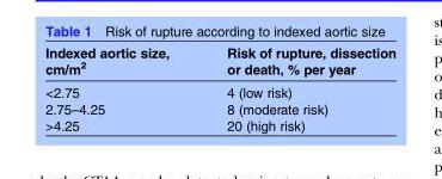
<table><thead><tr><td>Indexed aortic size, cm/m<sup>2</sup></td><td>Risk of rupture, dissection or death, % per year</td></tr></thead><tbody><tr><td>&lt;2.75</td><td>4 (low risk)</td></tr><tr><td>2.75–4.25</td><td>8 (moderate risk)</td></tr><tr><td>&gt;4.25</td><td>20 (high risk)</td></tr></tbody></table>